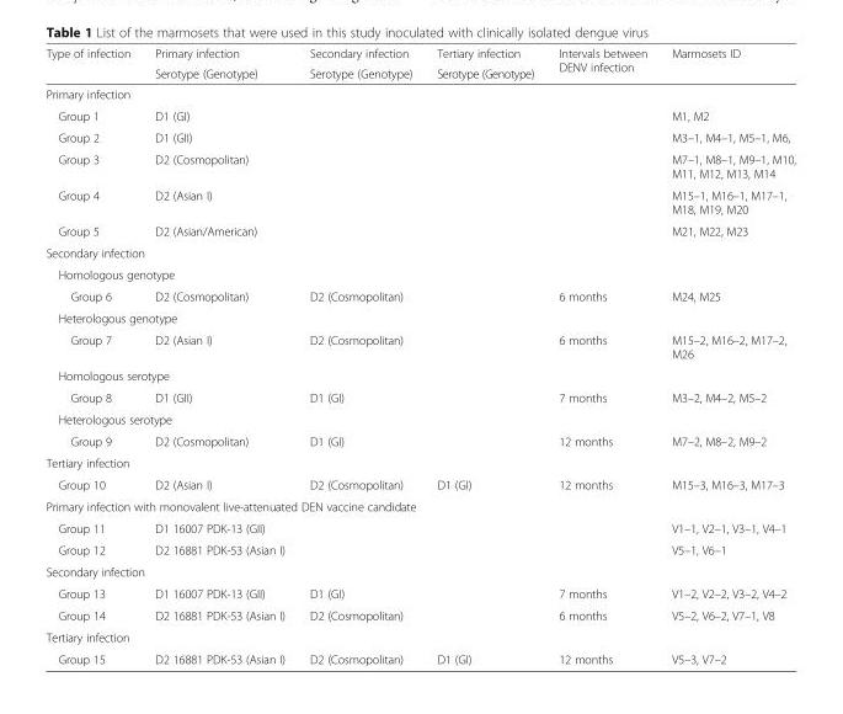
<table><thead><tr><td rowspan="2">Type of infection</td><td rowspan="2">Primary infection Serotype (Genotype)</td><td rowspan="2">Secondary infection Serotype (Genotype)</td><td rowspan="2">Tertiary infection Serotype (Genotype)</td><td rowspan="2">Intervals between DENV infection</td><td rowspan="2">Marmosets ID</td></tr><tr></tr></thead><tbody><tr><td colspan="6">Primary infection</td></tr><tr><td>Group 1</td><td>D1 (GI)</td><td></td><td></td><td></td><td>M1, M2</td></tr><tr><td>Group 2</td><td>D1 (GII)</td><td></td><td></td><td></td><td>M3–1, M4–1, M5–1, M6,</td></tr><tr><td>Group 3</td><td>D2 (Cosmopolitan)</td><td></td><td></td><td></td><td>M7–1, M8–1, M9–1, M10, M11, M12, M13, M14</td></tr><tr><td>Group 4</td><td>D2 (Asian I)</td><td></td><td></td><td></td><td>M15–1, M16–1, M17–1, M18, M19, M20</td></tr><tr><td>Group 5</td><td>D2 (Asian/American)</td><td></td><td></td><td></td><td>M21, M22, M23</td></tr><tr><td colspan="6">Secondary infection</td></tr><tr><td colspan="6">Homologous genotype</td></tr><tr><td>Group 6</td><td>D2 (Cosmopolitan)</td><td>D2 (Cosmopolitan)</td><td></td><td>6 months</td><td>M24, M25</td></tr><tr><td colspan="6">Heterologous genotype</td></tr><tr><td>Group 7</td><td>D2 (Asian I)</td><td>D2 (Cosmopolitan)</td><td></td><td>6 months</td><td>M15–2, M16–2, M17–2, M26</td></tr><tr><td colspan="6">Homologous serotype</td></tr><tr><td>Group 8</td><td>D1 (GII)</td><td>D1 (GI)</td><td></td><td>7 months</td><td>M3–2, M4–2, M5–2</td></tr><tr><td colspan="6">Heterologous serotype</td></tr><tr><td>Group 9</td><td>D2 (Cosmopolitan)</td><td>D1 (GI)</td><td></td><td>12 months</td><td>M7–2, M8–2, M9–2</td></tr><tr><td colspan="6">Tertiary infection</td></tr><tr><td>Group 10</td><td>D2 (Asian I)</td><td>D2 (Cosmopolitan)</td><td>D1 (GI)</td><td>12 months</td><td>M15–3, M16–3, M17–3</td></tr><tr><td colspan="6">Primary infection with monovalent live-attenuated DEN vaccine candidate</td></tr><tr><td>Group 11</td><td>D1 16007 PDK-13 (GII)</td><td></td><td></td><td></td><td>V1–1, V2–1, V3–1, V4–1</td></tr><tr><td>Group 12</td><td>D2 16881 PDK-53 (Asian I)</td><td></td><td></td><td></td><td>V5–1, V6–1</td></tr><tr><td colspan="6">Secondary infection</td></tr><tr><td>Group 13</td><td>D1 16007 PDK-13 (GII)</td><td>D1 (GI)</td><td></td><td>7 months</td><td>V1–2, V2–2, V3–2, V4–2</td></tr><tr><td>Group 14</td><td>D2 16881 PDK-53 (Asian I)</td><td>D2 (Cosmopolitan)</td><td></td><td>6 months</td><td>V5–2, V6–2, V7–1, V8</td></tr><tr><td colspan="6">Tertiary infection</td></tr><tr><td>Group 15</td><td>D2 16881 PDK-53 (Asian I)</td><td>D2 (Cosmopolitan)</td><td>D1 (GI)</td><td>12 months</td><td>V5–3, V7–2</td></tr></tbody></table>